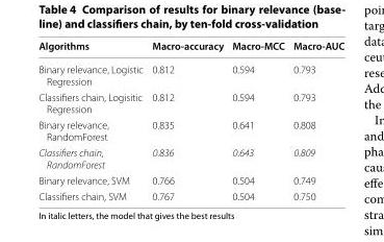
<table><thead><tr><td>Algorithms</td><td>Macro-accuracy</td><td>Macro-MCC</td><td>Macro-AUC</td></tr></thead><tbody><tr><td>Binary relevance, Logistic Regression</td><td>0.812</td><td>0.594</td><td>0.793</td></tr><tr><td>Classifiers chain, Logisitic Regression</td><td>0.812</td><td>0.594</td><td>0.793</td></tr><tr><td>Binary relevance, RandomForest</td><td>0.835</td><td>0.641</td><td>0.808</td></tr><tr><td>Classifiers chain, RandomForest</td><td>0.836</td><td>0.643</td><td>0.809</td></tr><tr><td>Binary relevance, SVM</td><td>0.766</td><td>0.504</td><td>0.749</td></tr><tr><td>Classifiers chain, SVM</td><td>0.767</td><td>0.504</td><td>0.750</td></tr></tbody></table>